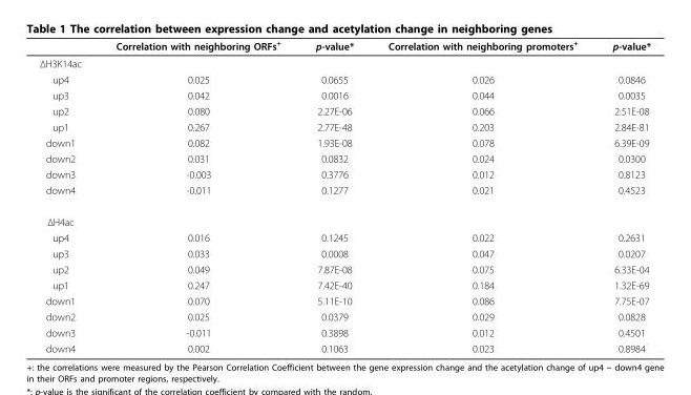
<table><thead><tr><td></td><td>Correlation with neighboring ORFs<sup>+</sup></td><td>p-value*</td><td>Correlation with neighboring promoters<sup>+</sup></td><td>p-value*</td></tr></thead><tbody><tr><td colspan="5">ΔH3K14ac</td></tr><tr><td>up4</td><td>0.025</td><td>0.0655</td><td>0.026</td><td>0.0846</td></tr><tr><td>up3</td><td>0.042</td><td>0.0016</td><td>0.044</td><td>0.0035</td></tr><tr><td>up2</td><td>0.080</td><td>2.27E-06</td><td>0.066</td><td>2.51E-08</td></tr><tr><td>up1</td><td>0.267</td><td>2.77E-48</td><td>0.203</td><td>2.84E-81</td></tr><tr><td>down1</td><td>0.082</td><td>1.93E-08</td><td>0.078</td><td>6.39E-09</td></tr><tr><td>down2</td><td>0.031</td><td>0.0832</td><td>0.024</td><td>0.0300</td></tr><tr><td>down3</td><td>-0.003</td><td>0.3776</td><td>0.012</td><td>0.8123</td></tr><tr><td>down4</td><td>-0.011</td><td>0.1277</td><td>0.021</td><td>0.4523</td></tr><tr><td colspan="5">ΔH4ac</td></tr><tr><td>up4</td><td>0.016</td><td>0.1245</td><td>0.022</td><td>0.2631</td></tr><tr><td>up3</td><td>0.033</td><td>0.0008</td><td>0.047</td><td>0.0207</td></tr><tr><td>up2</td><td>0.049</td><td>7.87E-08</td><td>0.075</td><td>6.33E-04</td></tr><tr><td>up1</td><td>0.247</td><td>7.42E-40</td><td>0.184</td><td>1.32E-69</td></tr><tr><td>down1</td><td>0.070</td><td>5.11E-10</td><td>0.086</td><td>7.75E-07</td></tr><tr><td>down2</td><td>0.025</td><td>0.0379</td><td>0.029</td><td>0.0828</td></tr><tr><td>down3</td><td>-0.011</td><td>0.3898</td><td>0.012</td><td>0.4501</td></tr><tr><td>down4</td><td>0.002</td><td>0.1063</td><td>0.023</td><td>0.8984</td></tr></tbody></table>